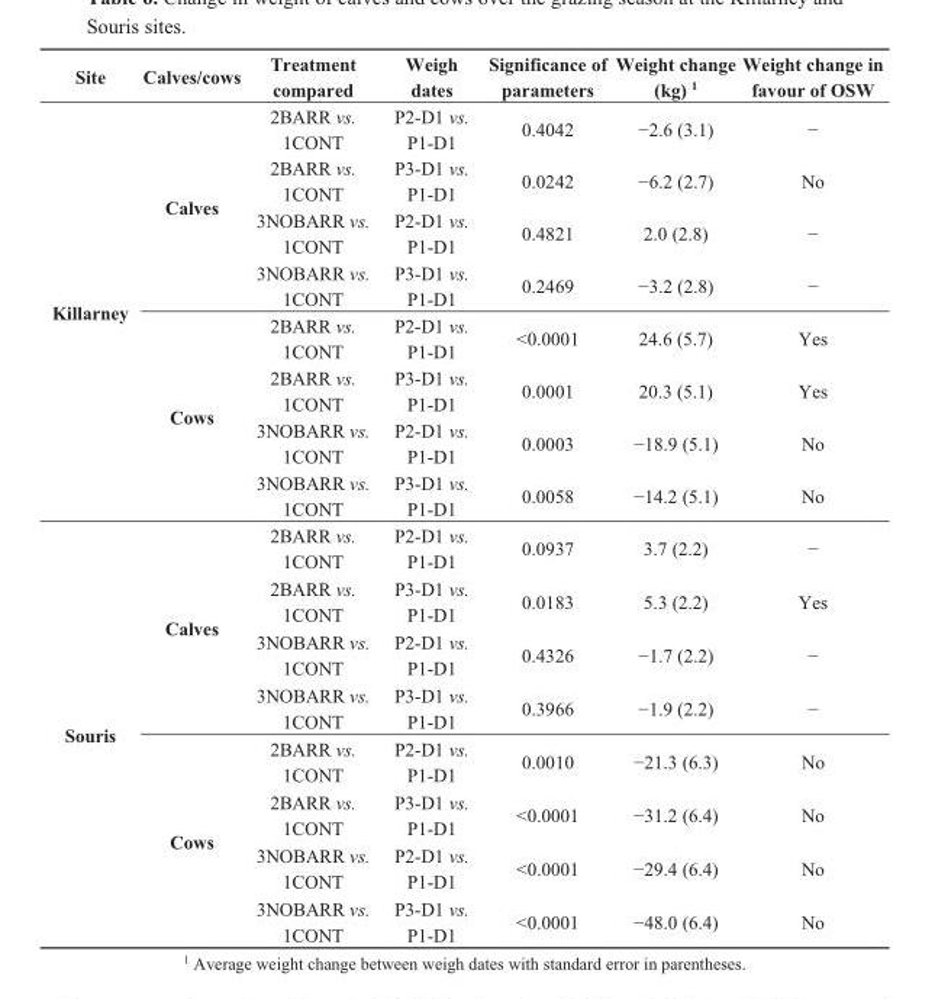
<table><thead><tr><td>Site</td><td>Calves/cows</td><td>Treatment compared</td><td>Weigh dates</td><td>Significance of parameters</td><td>Weight change (kg) <sup>1</sup></td><td>Weight change in favour of OSW</td></tr></thead><tbody><tr><td rowspan="8">Killarney</td><td rowspan="4">Calves</td><td>2BARR vs. 1CONT</td><td>P2-D1 vs. P1-D1</td><td>0.4042</td><td>−2.6 (3.1)</td><td>−</td></tr><tr><td>2BARR vs. 1CONT</td><td>P3-D1 vs. P1-D1</td><td>0.0242</td><td>−6.2 (2.7)</td><td>No</td></tr><tr><td>3NOBARR vs. 1CONT</td><td>P2-D1 vs. P1-D1</td><td>0.4821</td><td>2.0 (2.8)</td><td>−</td></tr><tr><td>3NOBARR vs. 1CONT</td><td>P3-D1 vs. P1-D1</td><td>0.2469</td><td>−3.2 (2.8)</td><td>−</td></tr><tr><td rowspan="4">Cows</td><td>2BARR vs. 1CONT</td><td>P2-D1 vs. P1-D1</td><td>&lt;0.0001</td><td>24.6 (5.7)</td><td>Yes</td></tr><tr><td>2BARR vs. 1CONT</td><td>P3-D1 vs. P1-D1</td><td>0.0001</td><td>20.3 (5.1)</td><td>Yes</td></tr><tr><td>3NOBARR vs. 1CONT</td><td>P2-D1 vs. P1-D1</td><td>0.0003</td><td>−18.9 (5.1)</td><td>No</td></tr><tr><td>3NOBARR vs. 1CONT</td><td>P3-D1 vs. P1-D1</td><td>0.0058</td><td>−14.2 (5.1)</td><td>No</td></tr><tr><td rowspan="8">Souris</td><td rowspan="4">Calves</td><td>2BARR vs. 1CONT</td><td>P2-D1 vs. P1-D1</td><td>0.0937</td><td>3.7 (2.2)</td><td>−</td></tr><tr><td>2BARR vs. 1CONT</td><td>P3-D1 vs. P1-D1</td><td>0.0183</td><td>5.3 (2.2)</td><td>Yes</td></tr><tr><td>3NOBARR vs. 1CONT</td><td>P2-D1 vs. P1-D1</td><td>0.4326</td><td>−1.7 (2.2)</td><td>−</td></tr><tr><td>3NOBARR vs. 1CONT</td><td>P3-D1 vs. P1-D1</td><td>0.3966</td><td>−1.9 (2.2)</td><td>−</td></tr><tr><td rowspan="4">Cows</td><td>2BARR vs. 1CONT</td><td>P2-D1 vs. P1-D1</td><td>0.0010</td><td>−21.3 (6.3)</td><td>No</td></tr><tr><td>2BARR vs. 1CONT</td><td>P3-D1 vs. P1-D1</td><td>&lt;0.0001</td><td>−31.2 (6.4)</td><td>No</td></tr><tr><td>3NOBARR vs. 1CONT</td><td>P2-D1 vs. P1-D1</td><td>&lt;0.0001</td><td>−29.4 (6.4)</td><td>No</td></tr><tr><td>3NOBARR vs. 1CONT</td><td>P3-D1 vs. P1-D1</td><td>&lt;0.0001</td><td>−48.0 (6.4)</td><td>No</td></tr></tbody></table>